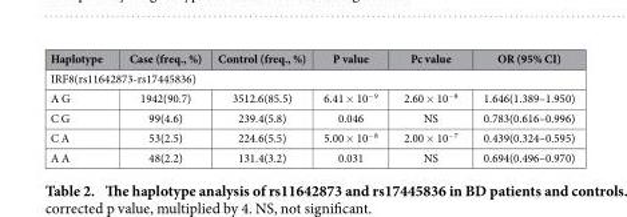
<table><thead><tr><td>Haplotype</td><td>Case (freq., %)</td><td>Control (freq., %)</td><td>P value</td><td>Pc value</td><td>OR (95% CI)</td></tr></thead><tbody><tr><td colspan="6">IRF8(rs11642873-rs17445836)</td></tr><tr><td>A G</td><td>1942(90.7)</td><td>3512.6(85.5)</td><td>6.41 × 10<sup>−9</sup></td><td>2.60 × 10<sup>−8</sup></td><td>1.646(1.389–1.950)</td></tr><tr><td>C G</td><td>99(4.6)</td><td>239.4(5.8)</td><td>0.046</td><td>NS</td><td>0.783(0.616–0.996)</td></tr><tr><td>C A</td><td>53(2.5)</td><td>224.6(5.5)</td><td>5.00 × 10<sup>−8</sup></td><td>2.00 × 10<sup>−7</sup></td><td>0.439(0.324–0.595)</td></tr><tr><td>A A</td><td>48(2.2)</td><td>131.4(3.2)</td><td>0.031</td><td>NS</td><td>0.694(0.496–0.970)</td></tr></tbody></table>